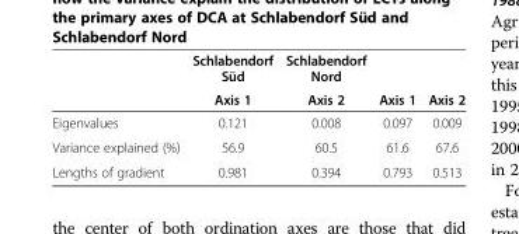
<table><thead><tr><td rowspan="2"></td><td rowspan="2">Schlabendorf Süd Axis 1</td><td rowspan="2">Schlabendorf Nord Axis 2</td><td rowspan="2">Axis 1</td><td rowspan="2">Axis 2</td></tr><tr></tr></thead><tbody><tr><td>Eigenvalues</td><td>0.121</td><td>0.008</td><td>0.097</td><td>0.009</td></tr><tr><td>Variance explained (%)</td><td>56.9</td><td>60.5</td><td>61.6</td><td>67.6</td></tr><tr><td>Lengths of gradient</td><td>0.981</td><td>0.394</td><td>0.793</td><td>0.513</td></tr></tbody></table>